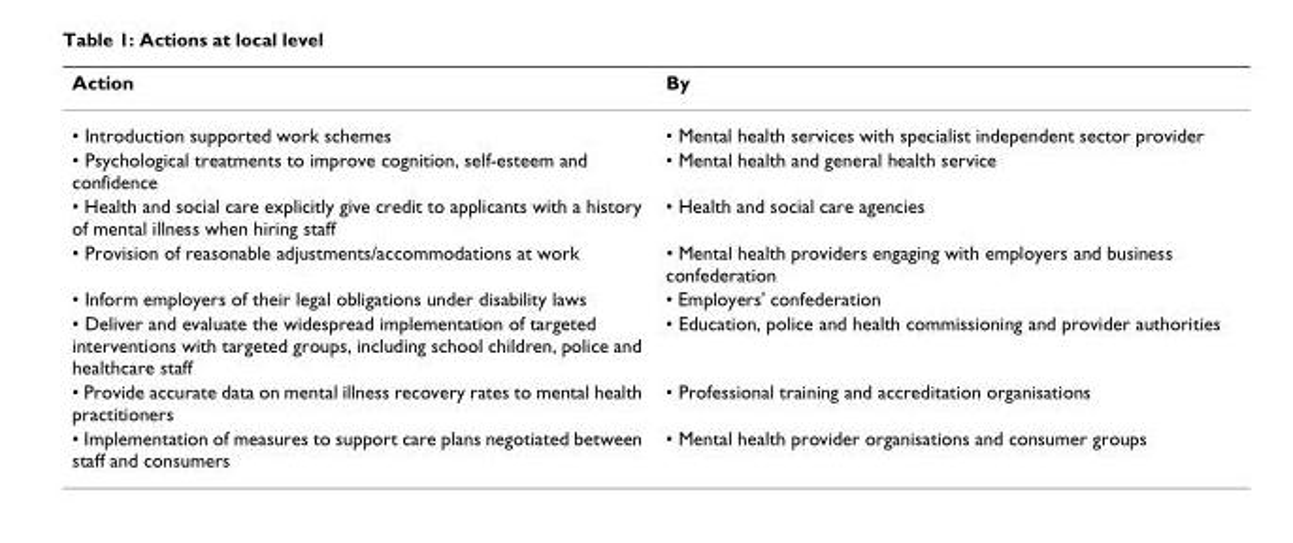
<table><thead><tr><td>Action</td><td>By</td></tr></thead><tbody><tr><td>• Introduction supported work schemes</td><td>• Mental health services with specialist independent sector provider</td></tr><tr><td>• Psychological treatments to improve cognition, self-esteem and confidence</td><td>• Mental health and general health service</td></tr><tr><td>• Health and social care explicitly give credit to applicants with a history of mental illness when hiring staff</td><td>• Health and social care agencies</td></tr><tr><td>• Provision of reasonable adjustments/accommodations at work</td><td>• Mental health providers engaging with employers and business confederation</td></tr><tr><td>• Inform employers of their legal obligations under disability laws</td><td>• Employers&#x27; confederation</td></tr><tr><td>• Deliver and evaluate the widespread implementation of targeted interventions with targeted groups, including school children, police and healthcare staff</td><td>• Education, police and health commissioning and provider authorities</td></tr><tr><td>• Provide accurate data on mental illness recovery rates to mental health practitioners</td><td>• Professional training and accreditation organisations</td></tr><tr><td>• Implementation of measures to support care plans negotiated between staff and consumers</td><td>• Mental health provider organisations and consumer groups</td></tr></tbody></table>